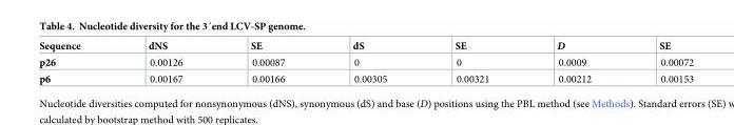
<table><thead><tr><td>Sequence</td><td>dNS</td><td>SE</td><td>dS</td><td>SE</td><td>D</td><td>SE</td></tr></thead><tbody><tr><td>p26</td><td>0.00126</td><td>0.00087</td><td>0</td><td>0</td><td>0.0009</td><td>0.00072</td></tr><tr><td>p6</td><td>0.00167</td><td>0.00166</td><td>0.00305</td><td>0.00321</td><td>0.00212</td><td>0.00153</td></tr></tbody></table>